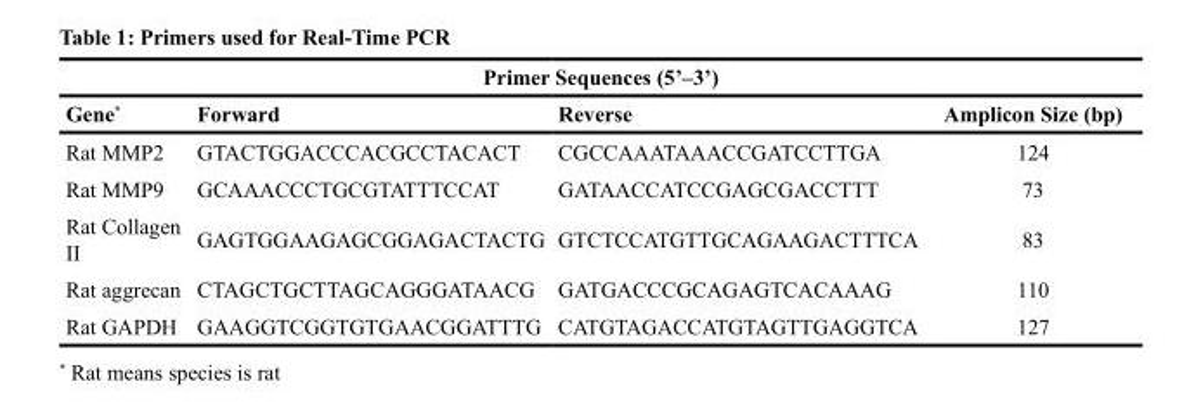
<table><thead><tr><td colspan="4">Primer Sequences (5’–3’)</td></tr><tr><td>Gene*</td><td>Forward</td><td>Reverse</td><td>Amplicon Size (bp)</td></tr></thead><tbody><tr><td>Rat MMP2</td><td>GTACTGGACCCACGCCTACACT</td><td>CGCCAAATAAACCGATCCTTGA</td><td>124</td></tr><tr><td>Rat MMP9</td><td>GCAAACCCTGCGTATTTCCAT</td><td>GATAACCATCCGAGCGACCTTT</td><td>73</td></tr><tr><td>Rat Collagen II</td><td>GAGTGGAAGAGCGGAGACTACTG</td><td>GTCTCCATGTTGCAGAAGACTTTCA</td><td>83</td></tr><tr><td>Rat aggrecan</td><td>CTAGCTGCTTAGCAGGGATAACG</td><td>GATGACCCGCAGAGTCACAAAG</td><td>110</td></tr><tr><td>Rat GAPDH</td><td>GAAGGTCGGTGTGAACGGATTTG</td><td>CATGTAGACCATGTAGTTGAGGTCA</td><td>127</td></tr></tbody></table>